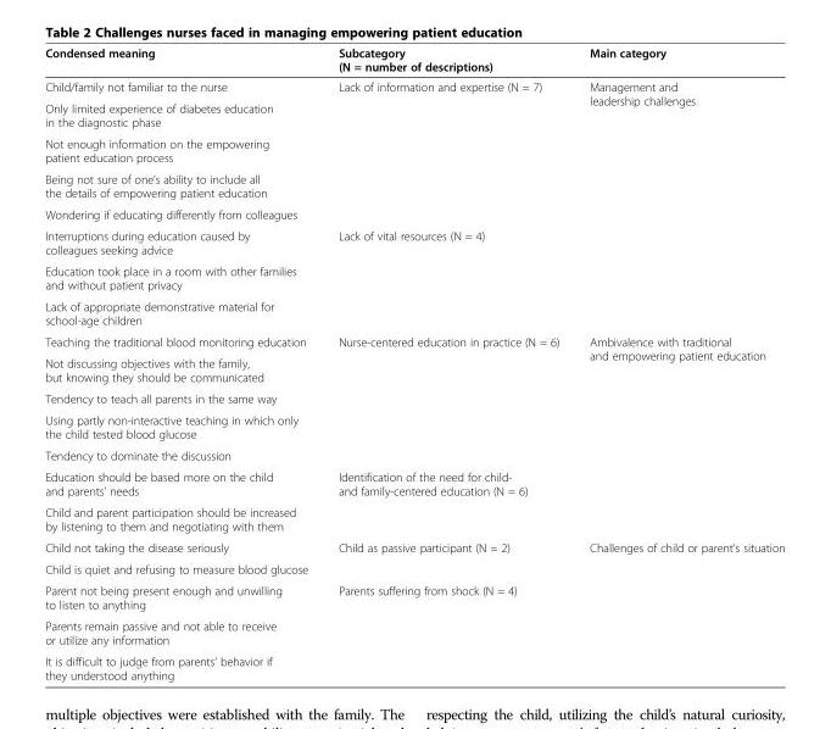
<table><thead><tr><td>Condensed meaning</td><td>Subcategory (N = number of descriptions)</td><td>Main category</td></tr></thead><tbody><tr><td>Child/family not familiar to the nurse</td><td rowspan="5">Lack of information and expertise (N = 7)</td><td rowspan="8">Management and leadership challenges</td></tr><tr><td>Only limited experience of diabetes education in the diagnostic phase</td></tr><tr><td>Not enough information on the empowering patient education process</td></tr><tr><td>Being not sure of one’s ability to include all the details of empowering patient education</td></tr><tr><td>Wondering if educating differently from colleagues</td></tr><tr><td>Interruptions during education caused by colleagues seeking advice</td><td rowspan="3">Lack of vital resources (N = 4)</td></tr><tr><td>Education took place in a room with other families and without patient privacy</td></tr><tr><td>Lack of appropriate demonstrative material for school-age children</td></tr><tr><td>Teaching the traditional blood monitoring education</td><td rowspan="5">Nurse-centered education in practice (N = 6)</td><td rowspan="7">Ambivalence with traditional and empowering patient education</td></tr><tr><td>Not discussing objectives with the family, but knowing they should be communicated</td></tr><tr><td>Tendency to teach all parents in the same way</td></tr><tr><td>Using partly non-interactive teaching in which only the child tested blood glucose</td></tr><tr><td>Tendency to dominate the discussion</td></tr><tr><td>Education should be based more on the child and parents’ needs</td><td rowspan="2">Identification of the need for child- and family-centered education (N = 6)</td></tr><tr><td>Child and parent participation should be increased by listening to them and negotiating with them</td></tr><tr><td>Child not taking the disease seriously</td><td rowspan="2">Child as passive participant (N = 2)</td><td rowspan="2">Challenges of child or parent’s situation</td></tr><tr><td>Child is quiet and refusing to measure blood glucose</td></tr><tr><td>Parent not being present enough and unwilling to listen to anything</td><td rowspan="3">Parents suffering from shock (N = 4)</td><td rowspan="3"></td></tr><tr><td>Parents remain passive and not able to receive or utilize any information</td></tr><tr><td>It is difficult to judge from parents’ behavior if they understood anything</td></tr></tbody></table>